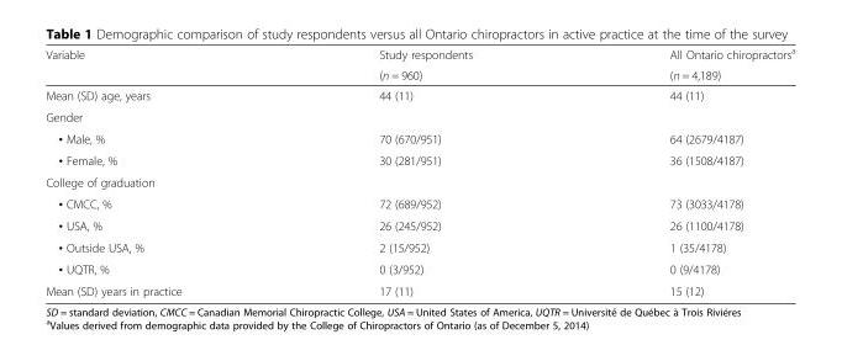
<table><thead><tr><td rowspan="2">Variable</td><td rowspan="2">Study respondents (n = 960)</td><td rowspan="2">All Ontario chiropractors<sup>a</sup> (n = 4,189)</td></tr><tr></tr></thead><tbody><tr><td>Mean (SD) age, years</td><td>44 (11)</td><td>44 (11)</td></tr><tr><td colspan="3">Gender</td></tr><tr><td>• Male, %</td><td>70 (670/951)</td><td>64 (2679/4187)</td></tr><tr><td>• Female, %</td><td>30 (281/951)</td><td>36 (1508/4187)</td></tr><tr><td colspan="3">College of graduation</td></tr><tr><td>• CMCC, %</td><td>72 (689/952)</td><td>73 (3033/4178)</td></tr><tr><td>• USA, %</td><td>26 (245/952)</td><td>26 (1100/4178)</td></tr><tr><td>• Outside USA, %</td><td>2 (15/952)</td><td>1 (35/4178)</td></tr><tr><td>• UQTR, %</td><td>0 (3/952)</td><td>0 (9/4178)</td></tr><tr><td>Mean (SD) years in practice</td><td>17 (11)</td><td>15 (12)</td></tr></tbody></table>